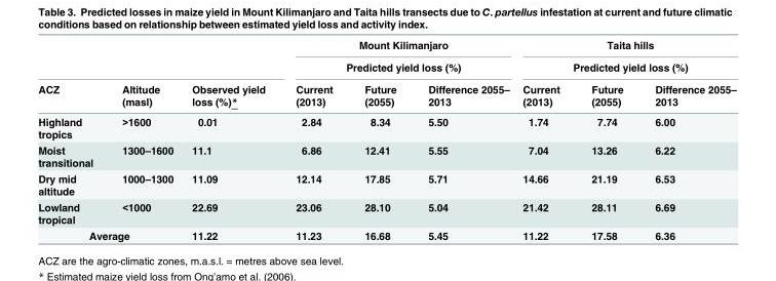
<table><thead><tr><td rowspan="3">ACZ</td><td rowspan="3">Altitude (masl)</td><td rowspan="3">Observed yield loss (%)*</td><td rowspan="2" colspan="3">Mount Kilimanjaro Predicted yield loss (%)</td><td rowspan="2" colspan="3">Taita hills Predicted yield loss (%)</td></tr><tr></tr><tr><td>Current (2013)</td><td>Future (2055)</td><td>Difference 2055– 2013</td><td>Current (2013)</td><td>Future (2055)</td><td>Difference 2055– 2013</td></tr></thead><tbody><tr><td>Highland tropics</td><td>&gt;1600</td><td>0.01</td><td>2.84</td><td>8.34</td><td>5.50</td><td>1.74</td><td>7.74</td><td>6.00</td></tr><tr><td>Moist transitional</td><td>1300–1600</td><td>11.1</td><td>6.86</td><td>12.41</td><td>5.55</td><td>7.04</td><td>13.26</td><td>6.22</td></tr><tr><td>Dry mid altitude</td><td>1000–1300</td><td>11.09</td><td>12.14</td><td>17.85</td><td>5.71</td><td>14.66</td><td>21.19</td><td>6.53</td></tr><tr><td>Lowland tropical</td><td>&lt;1000</td><td>22.69</td><td>23.06</td><td>28.10</td><td>5.04</td><td>21.42</td><td>28.11</td><td>6.69</td></tr><tr><td colspan="2">Average</td><td>11.22</td><td>11.23</td><td>16.68</td><td>5.45</td><td>11.22</td><td>17.58</td><td>6.36</td></tr></tbody></table>